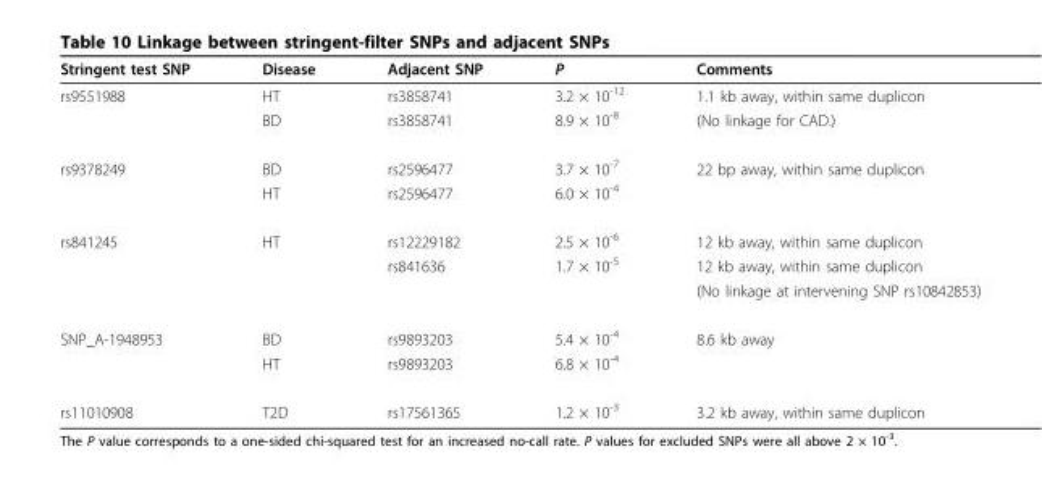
<table><thead><tr><td>Stringent test SNP</td><td>Disease</td><td>Adjacent SNP</td><td>P</td><td>Comments</td></tr></thead><tbody><tr><td rowspan="2">rs9551988</td><td>HT</td><td>rs3858741</td><td>3.2 × 10<sup>-12</sup></td><td>1.1 kb away, within same duplicon</td></tr><tr><td>BD</td><td>rs3858741</td><td>8.9 × 10<sup>-8</sup></td><td>(No linkage for CAD.)</td></tr><tr><td rowspan="2">rs9378249</td><td>BD</td><td>rs2596477</td><td>3.7 × 10<sup>-7</sup></td><td>22 bp away, within same duplicon</td></tr><tr><td>HT</td><td>rs2596477</td><td>6.0 × 10<sup>-4</sup></td><td></td></tr><tr><td rowspan="3">rs841245</td><td>HT</td><td>rs12229182</td><td>2.5 × 10<sup>-6</sup></td><td>12 kb away, within same duplicon</td></tr><tr><td></td><td>rs841636</td><td>1.7 × 10<sup>-5</sup></td><td>12 kb away, within same duplicon</td></tr><tr><td></td><td></td><td></td><td>(No linkage at intervening SNP rs10842853)</td></tr><tr><td rowspan="2">SNP_A-1948953</td><td>BD</td><td>rs9893203</td><td>5.4 × 10<sup>-4</sup></td><td>8.6 kb away</td></tr><tr><td>HT</td><td>rs9893203</td><td>6.8 × 10<sup>-4</sup></td><td></td></tr><tr><td>rs11010908</td><td>T2D</td><td>rs17561365</td><td>1.2 × 10<sup>-3</sup></td><td>3.2 kb away, within same duplicon</td></tr></tbody></table>